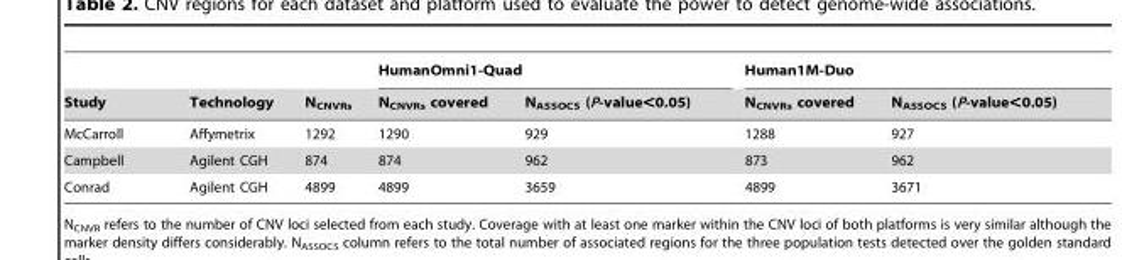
<table><thead><tr><td rowspan="2">Study</td><td rowspan="2">Technology</td><td rowspan="2">N<sub>CNVRs</sub></td><td colspan="2">HumanOmni1-Quad</td><td colspan="2">Human1M-Duo</td></tr><tr><td>N<sub>CNVRs</sub> covered</td><td>N<sub>ASSOCS</sub> (P-value&lt;0.05)</td><td>N<sub>CNVRs</sub> covered</td><td>N<sub>ASSOCS</sub> (P-value&lt;0.05)</td></tr></thead><tbody><tr><td>McCarroll</td><td>Affymetrix</td><td>1292</td><td>1290</td><td>929</td><td>1288</td><td>927</td></tr><tr><td>Campbell</td><td>Agilent CGH</td><td>874</td><td>874</td><td>962</td><td>873</td><td>962</td></tr><tr><td>Conrad</td><td>Agilent CGH</td><td>4899</td><td>4899</td><td>3659</td><td>4899</td><td>3671</td></tr></tbody></table>